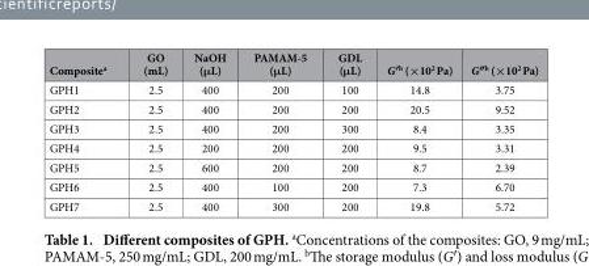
<table><thead><tr><td>Composite<sup>a</sup></td><td>GO (mL)</td><td>NaOH (μL)</td><td>PAMAM-5 (μL)</td><td>GDL (μL)</td><td>G′<sup>b</sup> (×10<sup>2</sup> Pa)</td><td>G″<sup>b</sup> (×10<sup>2</sup> Pa)</td></tr></thead><tbody><tr><td>GPH1</td><td>2.5</td><td>400</td><td>200</td><td>100</td><td>14.8</td><td>3.75</td></tr><tr><td>GPH2</td><td>2.5</td><td>400</td><td>200</td><td>200</td><td>20.5</td><td>9.52</td></tr><tr><td>GPH3</td><td>2.5</td><td>400</td><td>200</td><td>300</td><td>8.4</td><td>3.35</td></tr><tr><td>GPH4</td><td>2.5</td><td>200</td><td>200</td><td>200</td><td>9.5</td><td>3.31</td></tr><tr><td>GPH5</td><td>2.5</td><td>600</td><td>200</td><td>200</td><td>8.7</td><td>2.39</td></tr><tr><td>GPH6</td><td>2.5</td><td>400</td><td>100</td><td>200</td><td>7.3</td><td>6.70</td></tr><tr><td>GPH7</td><td>2.5</td><td>400</td><td>300</td><td>200</td><td>19.8</td><td>5.72</td></tr></tbody></table>